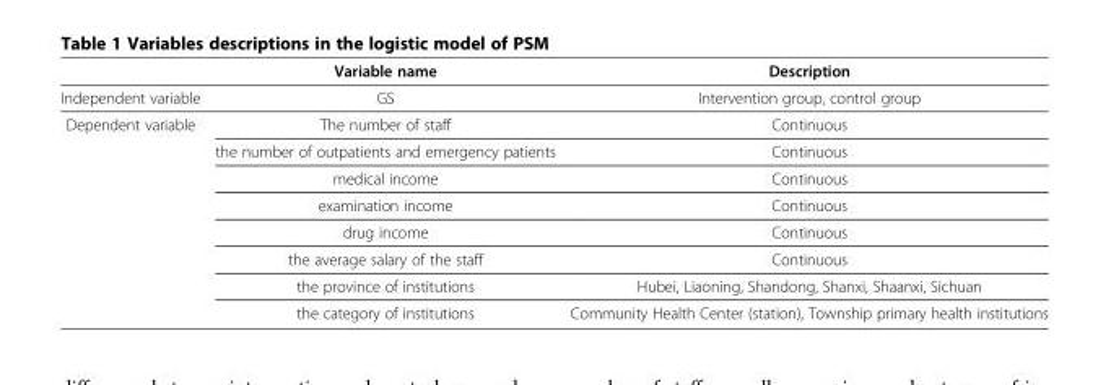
<table><thead><tr><td></td><td>Variable name</td><td>Description</td></tr></thead><tbody><tr><td>Independent variable</td><td>GS</td><td>Intervention group, control group</td></tr><tr><td rowspan="8">Dependent variable</td><td>The number of staff</td><td>Continuous</td></tr><tr><td>the number of outpatients and emergency patients</td><td>Continuous</td></tr><tr><td>medical income</td><td>Continuous</td></tr><tr><td>examination income</td><td>Continuous</td></tr><tr><td>drug income</td><td>Continuous</td></tr><tr><td>the average salary of the staff</td><td>Continuous</td></tr><tr><td>the province of institutions</td><td>Hubei, Liaoning, Shandong, Shanxi, Shaanxi, Sichuan</td></tr><tr><td>the category of institutions</td><td>Community Health Center (station), Township primary health institutions</td></tr></tbody></table>